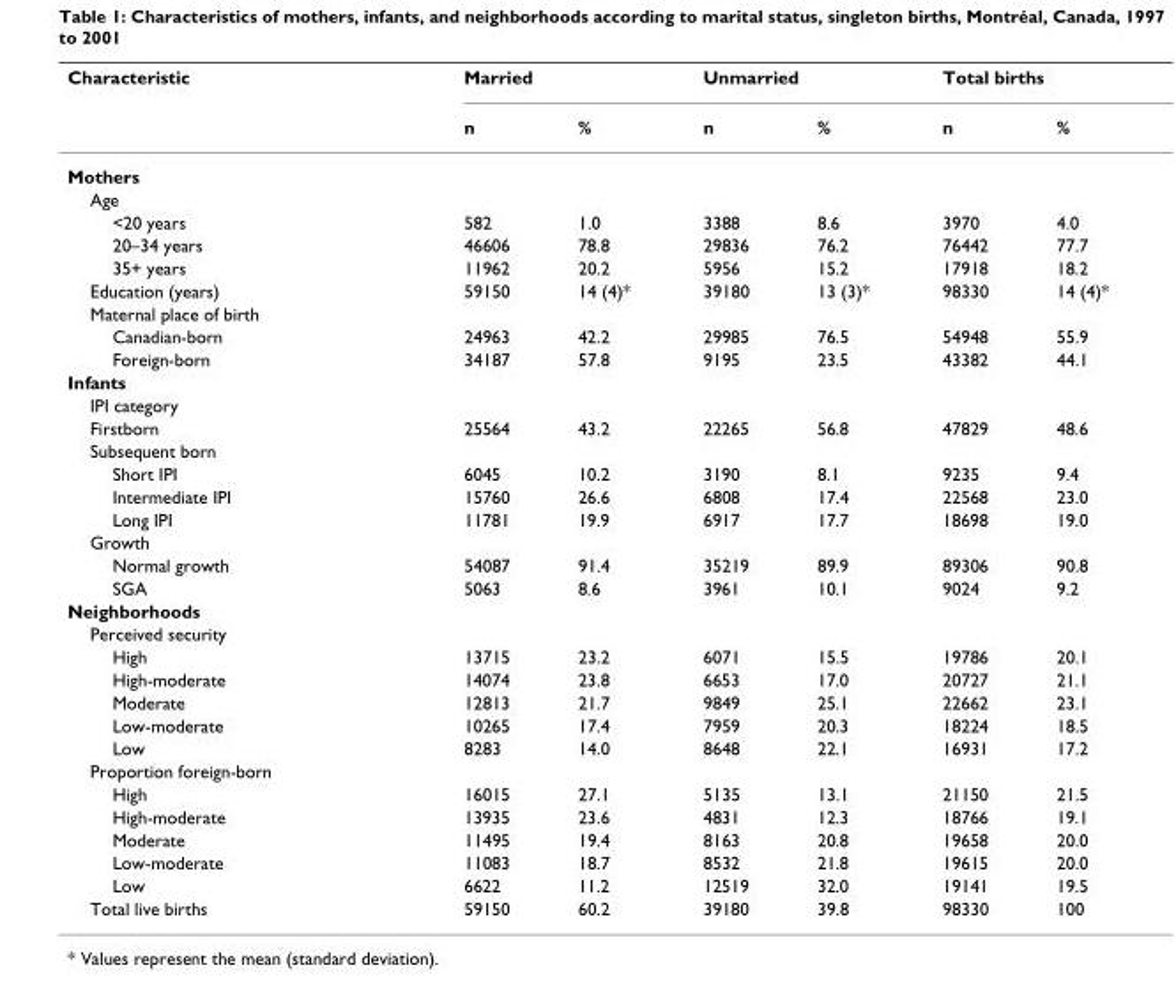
<table><thead><tr><td rowspan="2">Characteristic</td><td colspan="2">Married</td><td colspan="2">Unmarried</td><td colspan="2">Total births</td></tr><tr><td>n</td><td>%</td><td>n</td><td>%</td><td>n</td><td>%</td></tr></thead><tbody><tr><td colspan="7">Mothers</td></tr><tr><td colspan="7">Age</td></tr><tr><td>&lt;20 years</td><td>582</td><td>1.0</td><td>3388</td><td>8.6</td><td>3970</td><td>4.0</td></tr><tr><td>20–34 years</td><td>46606</td><td>78.8</td><td>29836</td><td>76.2</td><td>76442</td><td>77.7</td></tr><tr><td>35+ years</td><td>11962</td><td>20.2</td><td>5956</td><td>15.2</td><td>17918</td><td>18.2</td></tr><tr><td>Education (years)</td><td>59150</td><td>14 (4)*</td><td>39180</td><td>13 (3)*</td><td>98330</td><td>14 (4)*</td></tr><tr><td colspan="7">Maternal place of birth</td></tr><tr><td>Canadian-born</td><td>24963</td><td>42.2</td><td>29985</td><td>76.5</td><td>54948</td><td>55.9</td></tr><tr><td>Foreign-born</td><td>34187</td><td>57.8</td><td>9195</td><td>23.5</td><td>43382</td><td>44.1</td></tr><tr><td colspan="7">Infants</td></tr><tr><td colspan="7">IPI category</td></tr><tr><td>Firstborn</td><td>25564</td><td>43.2</td><td>22265</td><td>56.8</td><td>47829</td><td>48.6</td></tr><tr><td colspan="7">Subsequent born</td></tr><tr><td>Short IPI</td><td>6045</td><td>10.2</td><td>3190</td><td>8.1</td><td>9235</td><td>9.4</td></tr><tr><td>Intermediate IPI</td><td>15760</td><td>26.6</td><td>6808</td><td>17.4</td><td>22568</td><td>23.0</td></tr><tr><td>Long IPI</td><td>11781</td><td>19.9</td><td>6917</td><td>17.7</td><td>18698</td><td>19.0</td></tr><tr><td colspan="7">Growth</td></tr><tr><td>Normal growth</td><td>54087</td><td>91.4</td><td>35219</td><td>89.9</td><td>89306</td><td>90.8</td></tr><tr><td>SGA</td><td>5063</td><td>8.6</td><td>3961</td><td>10.1</td><td>9024</td><td>9.2</td></tr><tr><td colspan="7">Neighborhoods</td></tr><tr><td colspan="7">Perceived security</td></tr><tr><td>High</td><td>13715</td><td>23.2</td><td>6071</td><td>15.5</td><td>19786</td><td>20.1</td></tr><tr><td>High-moderate</td><td>14074</td><td>23.8</td><td>6653</td><td>17.0</td><td>20727</td><td>21.1</td></tr><tr><td>Moderate</td><td>12813</td><td>21.7</td><td>9849</td><td>25.1</td><td>22662</td><td>23.1</td></tr><tr><td>Low-moderate</td><td>10265</td><td>17.4</td><td>7959</td><td>20.3</td><td>18224</td><td>18.5</td></tr><tr><td>Low</td><td>8283</td><td>14.0</td><td>8648</td><td>22.1</td><td>16931</td><td>17.2</td></tr><tr><td colspan="7">Proportion foreign-born</td></tr><tr><td>High</td><td>16015</td><td>27.1</td><td>5135</td><td>13.1</td><td>21150</td><td>21.5</td></tr><tr><td>High-moderate</td><td>13935</td><td>23.6</td><td>4831</td><td>12.3</td><td>18766</td><td>19.1</td></tr><tr><td>Moderate</td><td>11495</td><td>19.4</td><td>8163</td><td>20.8</td><td>19658</td><td>20.0</td></tr><tr><td>Low-moderate</td><td>11083</td><td>18.7</td><td>8532</td><td>21.8</td><td>19615</td><td>20.0</td></tr><tr><td>Low</td><td>6622</td><td>11.2</td><td>12519</td><td>32.0</td><td>19141</td><td>19.5</td></tr><tr><td>Total live births</td><td>59150</td><td>60.2</td><td>39180</td><td>39.8</td><td>98330</td><td>100</td></tr></tbody></table>